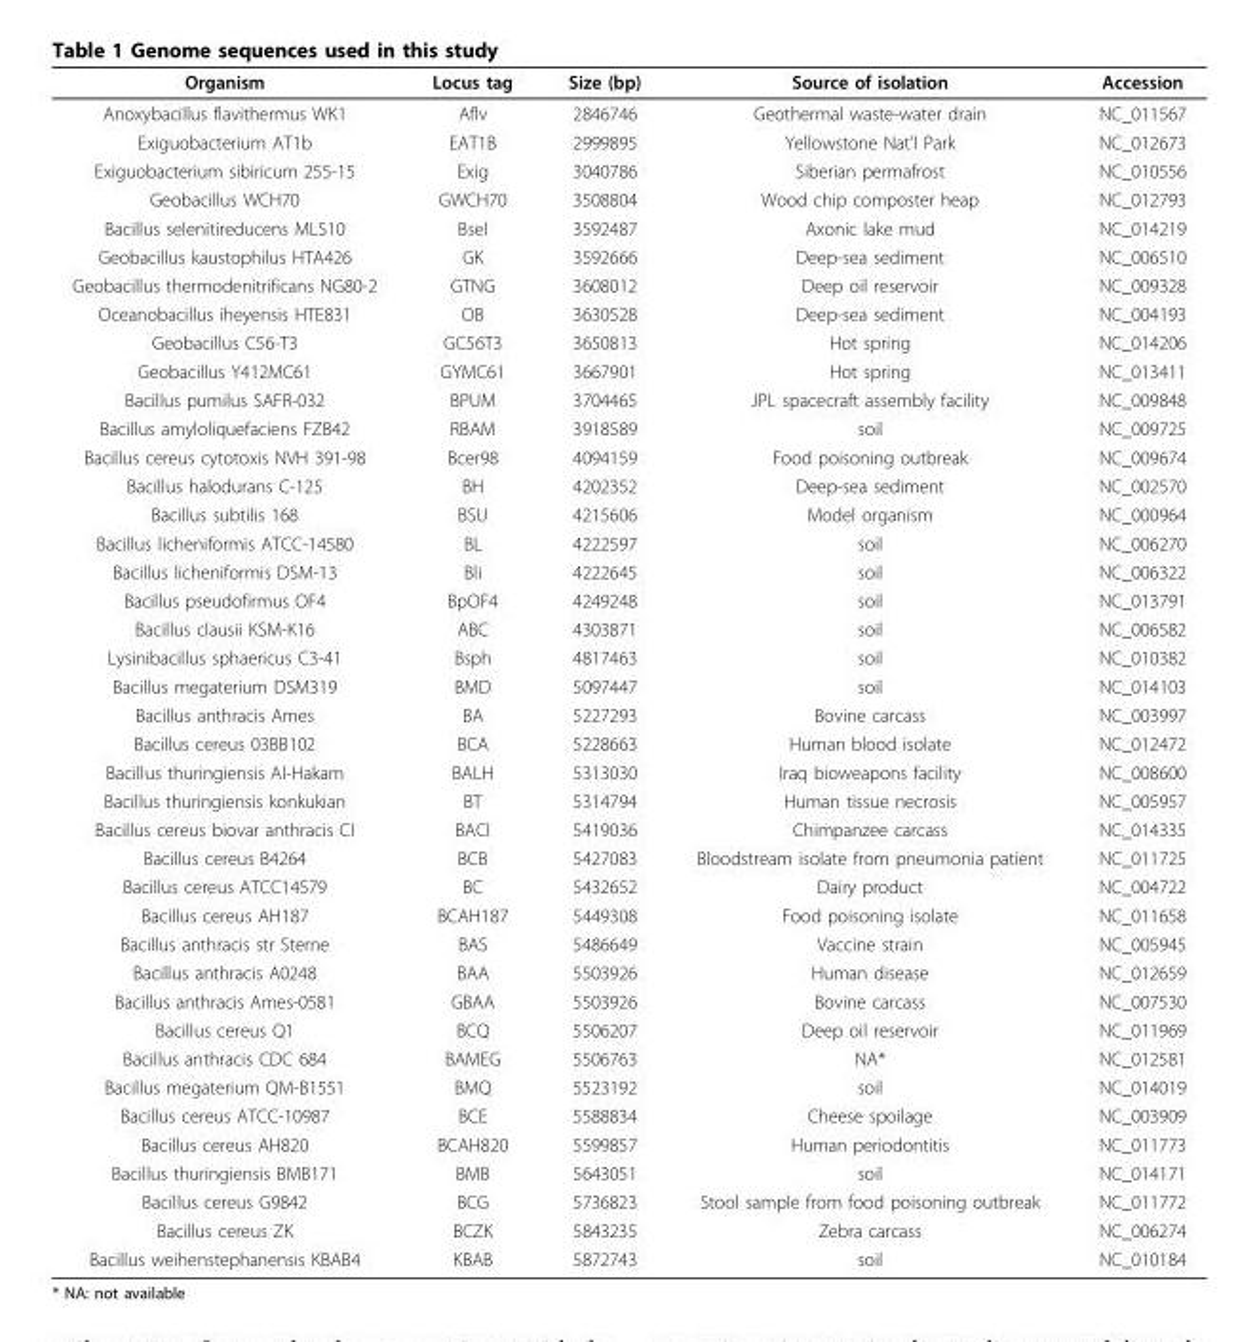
<table><thead><tr><td>Organism</td><td>Locus tag</td><td>Size (bp)</td><td>Source of isolation</td><td>Accession</td></tr></thead><tbody><tr><td>Anoxybacillus flavithermus WK1</td><td>Aflv</td><td>2846746</td><td>Geothermal waste-water drain</td><td>NC_011567</td></tr><tr><td>Exiguobacterium AT1b</td><td>EAT1B</td><td>2999895</td><td>Yellowstone Nat’l Park</td><td>NC_012673</td></tr><tr><td>Exiguobacterium sibiricum 255-15</td><td>Exig</td><td>3040786</td><td>Siberian permafrost</td><td>NC_010556</td></tr><tr><td>Geobacillus WCH70</td><td>GWCH70</td><td>3508804</td><td>Wood chip composter heap</td><td>NC_012793</td></tr><tr><td>Bacillus selenitireducens MLS10</td><td>Bsel</td><td>3592487</td><td>Axonic lake mud</td><td>NC_014219</td></tr><tr><td>Geobacillus kaustophilus HTA426</td><td>GK</td><td>3592666</td><td>Deep-sea sediment</td><td>NC_006510</td></tr><tr><td>Geobacillus thermodenitrificans NG80-2</td><td>GTNG</td><td>3608012</td><td>Deep oil reservoir</td><td>NC_009328</td></tr><tr><td>Oceanobacillus iheyensis HTE831</td><td>OB</td><td>3630528</td><td>Deep-sea sediment</td><td>NC_004193</td></tr><tr><td>Geobacillus C56-T3</td><td>GC56T3</td><td>3650813</td><td>Hot spring</td><td>NC_014206</td></tr><tr><td>Geobacillus Y412MC61</td><td>GYMC61</td><td>3667901</td><td>Hot spring</td><td>NC_013411</td></tr><tr><td>Bacillus pumilus SAFR-032</td><td>BPUM</td><td>3704465</td><td>JPL spacecraft assembly facility</td><td>NC_009848</td></tr><tr><td>Bacillus amyloliquefaciens FZB42</td><td>RBAM</td><td>3918589</td><td>soil</td><td>NC_009725</td></tr><tr><td>Bacillus cereus cytotoxis NVH 391-98</td><td>Bcer98</td><td>4094159</td><td>Food poisoning outbreak</td><td>NC_009674</td></tr><tr><td>Bacillus halodurans C-125</td><td>BH</td><td>4202352</td><td>Deep-sea sediment</td><td>NC_002570</td></tr><tr><td>Bacillus subtilis 168</td><td>BSU</td><td>4215606</td><td>Model organism</td><td>NC_000964</td></tr><tr><td>Bacillus licheniformis ATCC-14580</td><td>BL</td><td>4222597</td><td>soil</td><td>NC_006270</td></tr><tr><td>Bacillus licheniformis DSM-13</td><td>Bli</td><td>4222645</td><td>soil</td><td>NC_006322</td></tr><tr><td>Bacillus pseudofirmus OF4</td><td>BpOF4</td><td>4249248</td><td>soil</td><td>NC_013791</td></tr><tr><td>Bacillus clausii KSM-K16</td><td>ABC</td><td>4303871</td><td>soil</td><td>NC_006582</td></tr><tr><td>Lysinibacillus sphaericus C3-41</td><td>Bsph</td><td>4817463</td><td>soil</td><td>NC_010382</td></tr><tr><td>Bacillus megaterium DSM319</td><td>BMD</td><td>5097447</td><td>soil</td><td>NC_014103</td></tr><tr><td>Bacillus anthracis Ames</td><td>BA</td><td>5227293</td><td>Bovine carcass</td><td>NC_003997</td></tr><tr><td>Bacillus cereus 03BB102</td><td>BCA</td><td>5228663</td><td>Human blood isolate</td><td>NC_012472</td></tr><tr><td>Bacillus thuringiensis Al-Hakam</td><td>BALH</td><td>5313030</td><td>Iraq bioweapons facility</td><td>NC_008600</td></tr><tr><td>Bacillus thuringiensis konkukian</td><td>BT</td><td>5314794</td><td>Human tissue necrosis</td><td>NC_005957</td></tr><tr><td>Bacillus cereus biovar anthracis CI</td><td>BACI</td><td>5419036</td><td>Chimpanzee carcass</td><td>NC_014335</td></tr><tr><td>Bacillus cereus B4264</td><td>BCB</td><td>5427083</td><td>Bloodstream isolate from pneumonia patient</td><td>NC_011725</td></tr><tr><td>Bacillus cereus ATCC14579</td><td>BC</td><td>5432652</td><td>Dairy product</td><td>NC_004722</td></tr><tr><td>Bacillus cereus AH187</td><td>BCAH187</td><td>5449308</td><td>Food poisoning isolate</td><td>NC_011658</td></tr><tr><td>Bacillus anthracis str Sterne</td><td>BAS</td><td>5486649</td><td>Vaccine strain</td><td>NC_005945</td></tr><tr><td>Bacillus anthracis A0248</td><td>BAA</td><td>5503926</td><td>Human disease</td><td>NC_012659</td></tr><tr><td>Bacillus anthracis Ames-0581</td><td>GBAA</td><td>5503926</td><td>Bovine carcass</td><td>NC_007530</td></tr><tr><td>Bacillus cereus Q1</td><td>BCQ</td><td>5506207</td><td>Deep oil reservoir</td><td>NC_011969</td></tr><tr><td>Bacillus anthracis CDC 684</td><td>BAMEG</td><td>5506763</td><td>NA*</td><td>NC_012581</td></tr><tr><td>Bacillus megaterium QM-B1551</td><td>BMQ</td><td>5523192</td><td>soil</td><td>NC_014019</td></tr><tr><td>Bacillus cereus ATCC-10987</td><td>BCE</td><td>5588834</td><td>Cheese spoilage</td><td>NC_003909</td></tr><tr><td>Bacillus cereus AH820</td><td>BCAH820</td><td>5599857</td><td>Human periodontitis</td><td>NC_011773</td></tr><tr><td>Bacillus thuringiensis BMB171</td><td>BMB</td><td>5643051</td><td>soil</td><td>NC_014171</td></tr><tr><td>Bacillus cereus G9842</td><td>BCG</td><td>5736823</td><td>Stool sample from food poisoning outbreak</td><td>NC_011772</td></tr><tr><td>Bacillus cereus ZK</td><td>BCZK</td><td>5843235</td><td>Zebra carcass</td><td>NC_006274</td></tr><tr><td>Bacillus weihenstephanensis KBAB4</td><td>KBAB</td><td>5872743</td><td>soil</td><td>NC_010184</td></tr></tbody></table>